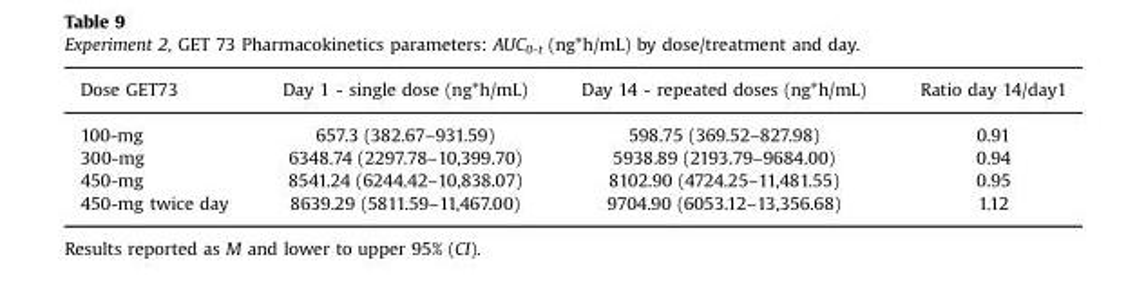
<table><thead><tr><td>Dose GET73</td><td>Day 1 - single dose (ng*h/mL)</td><td>Day 14 - repeated doses (ng*h/mL)</td><td>Ratio day 14/day1</td></tr></thead><tbody><tr><td>100-mg</td><td>657.3 (382.67–931.59)</td><td>598.75 (369.52–827.98)</td><td>0.91</td></tr><tr><td>300-mg</td><td>6348.74 (2297.78–10,399.70)</td><td>5938.89 (2193.79–9684.00)</td><td>0.94</td></tr><tr><td>450-mg</td><td>8541.24 (6244.42–10,838.07)</td><td>8102.90 (4724.25–11,481.55)</td><td>0.95</td></tr><tr><td>450-mg twice day</td><td>8639.29 (5811.59–11,467.00)</td><td>9704.90 (6053.12–13,356.68)</td><td>1.12</td></tr></tbody></table>